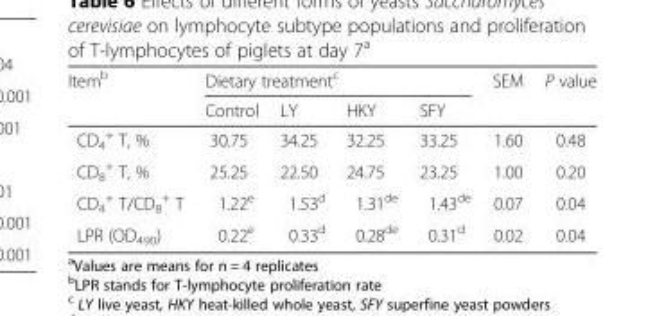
<table><thead><tr><td rowspan="2">Item<sup>b</sup></td><td colspan="4">Dietary treatment<sup>c</sup></td><td rowspan="2">SEM</td><td rowspan="2">P value</td></tr><tr><td>Control</td><td>LY</td><td>HKY</td><td>SFY</td></tr></thead><tbody><tr><td>CD<sub>4</sub> <sup>+</sup> T, %</td><td>30.75</td><td>34.25</td><td>32.25</td><td>33.25</td><td>1.60</td><td>0.48</td></tr><tr><td>CD<sub>8</sub> <sup>+</sup> T, %</td><td>25.25</td><td>22.50</td><td>24.75</td><td>23.25</td><td>1.00</td><td>0.20</td></tr><tr><td>CD<sub>4</sub> <sup>+</sup> T/CD<sub>8</sub> <sup>+</sup> T</td><td>1.22<sup>e</sup></td><td>1.53<sup>d</sup></td><td>1.31<sup>de</sup></td><td>1.43<sup>de</sup></td><td>0.07</td><td>0.04</td></tr><tr><td>LPR (OD<sub>490</sub>)</td><td>0.22<sup>e</sup></td><td>0.33<sup>d</sup></td><td>0.28<sup>de</sup></td><td>0.31<sup>d</sup></td><td>0.02</td><td>0.04</td></tr></tbody></table>